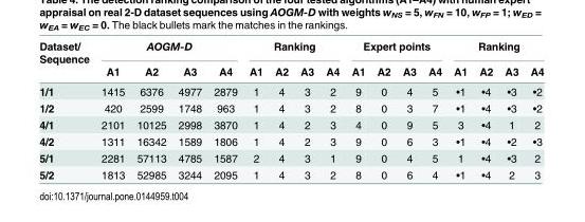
<table><thead><tr><td rowspan="2">Dataset/ Sequence</td><td colspan="4">AOGM-D</td><td colspan="4">Ranking</td><td colspan="4">Expert points</td><td colspan="4">Ranking</td></tr><tr><td>A1</td><td>A2</td><td>A3</td><td>A4</td><td>A1</td><td>A2</td><td>A3</td><td>A4</td><td>A1</td><td>A2</td><td>A3</td><td>A4</td><td>A1</td><td>A2</td><td>A3</td><td>A4</td></tr></thead><tbody><tr><td>1/1</td><td>1415</td><td>6376</td><td>4977</td><td>2879</td><td>1</td><td>4</td><td>3</td><td>2</td><td>9</td><td>0</td><td>4</td><td>5</td><td>•1</td><td>•4</td><td>•3</td><td>•2</td></tr><tr><td>1/2</td><td>420</td><td>2599</td><td>1748</td><td>963</td><td>1</td><td>4</td><td>3</td><td>2</td><td>8</td><td>0</td><td>3</td><td>7</td><td>•1</td><td>•4</td><td>•3</td><td>•2</td></tr><tr><td>4/1</td><td>2101</td><td>10125</td><td>2998</td><td>3870</td><td>1</td><td>4</td><td>2</td><td>3</td><td>4</td><td>0</td><td>9</td><td>5</td><td>3</td><td>•4</td><td>1</td><td>2</td></tr><tr><td>4/2</td><td>1311</td><td>16342</td><td>1589</td><td>1806</td><td>1</td><td>4</td><td>2</td><td>3</td><td>9</td><td>0</td><td>6</td><td>3</td><td>•1</td><td>•4</td><td>•2</td><td>•3</td></tr><tr><td>5/1</td><td>2281</td><td>57113</td><td>4785</td><td>1587</td><td>2</td><td>4</td><td>3</td><td>1</td><td>9</td><td>0</td><td>4</td><td>5</td><td>1</td><td>•4</td><td>•3</td><td>2</td></tr><tr><td>5/2</td><td>1813</td><td>52985</td><td>3244</td><td>2095</td><td>1</td><td>4</td><td>3</td><td>2</td><td>8</td><td>0</td><td>6</td><td>4</td><td>•1</td><td>•4</td><td>2</td><td>3</td></tr></tbody></table>